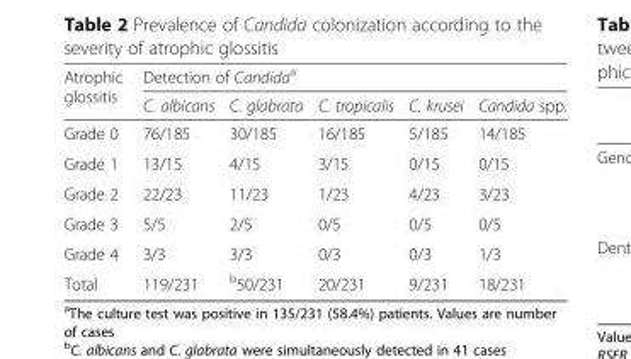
<table><thead><tr><td rowspan="2">Atrophic glossitis</td><td colspan="5">Detection of Candida<sup>a</sup></td></tr><tr><td>C. albicans</td><td>C. glabrata</td><td>C. tropicalis</td><td>C. krusei</td><td>Candida spp.</td></tr></thead><tbody><tr><td>Grade 0</td><td>76/185</td><td>30/185</td><td>16/185</td><td>5/185</td><td>14/185</td></tr><tr><td>Grade 1</td><td>13/15</td><td>4/15</td><td>3/15</td><td>0/15</td><td>0/15</td></tr><tr><td>Grade 2</td><td>22/23</td><td>11/23</td><td>1/23</td><td>4/23</td><td>3/23</td></tr><tr><td>Grade 3</td><td>5/5</td><td>2/5</td><td>0/5</td><td>0/5</td><td>0/5</td></tr><tr><td>Grade 4</td><td>3/3</td><td>3/3</td><td>0/3</td><td>0/3</td><td>1/3</td></tr><tr><td>Total</td><td>119/231</td><td><sup>b</sup>50/231</td><td>20/231</td><td>9/231</td><td>18/231</td></tr></tbody></table>